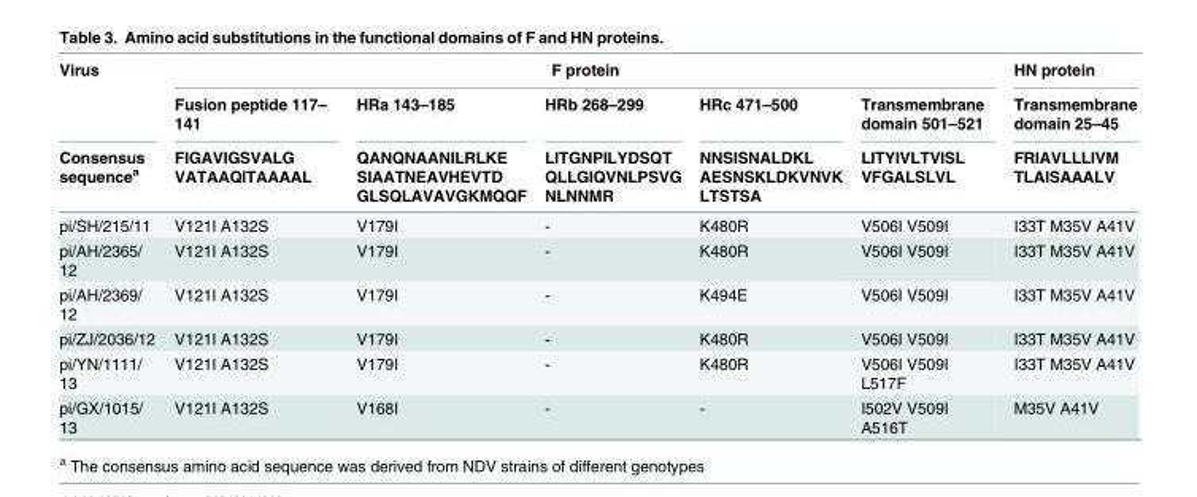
<table><thead><tr><td rowspan="3">Virus Consensus sequence<sup>a</sup></td><td colspan="5">F protein</td><td rowspan="3">HN protein Transmembrane domain 25–45 FRIAVLLLIVM TLAISAAALV</td></tr><tr><td rowspan="2">Fusion peptide 117– 141 FIGAVIGSVALG VATAAQITAAAAL</td><td rowspan="2">HRa 143–185 QANQNAANILRLKE SIAATNEAVHEVTD GLSQLAVAVGKMQQF</td><td rowspan="2">HRb 268–299 LITGNPILYDSQT QLLGIQVNLPSVG NLNNMR</td><td rowspan="2">HRc 471–500 NNSISNALDKL AESNSKLDKVNVK LTSTSA</td><td rowspan="2">Transmembrane domain 501–521 LITYIVLTVISL VFGALSLVL</td></tr><tr></tr></thead><tbody><tr><td>pi/SH/215/11</td><td>V121I A132S</td><td>V179I</td><td>-</td><td>K480R</td><td>V506I V509I</td><td>I33T M35V A41V</td></tr><tr><td>pi/AH/2365/ 12</td><td>V121I A132S</td><td>V179I</td><td>-</td><td>K480R</td><td>V506I V509I</td><td>I33T M35V A41V</td></tr><tr><td>pi/AH/2369/ 12</td><td>V121I A132S</td><td>V179I</td><td>-</td><td>K494E</td><td>V506I V509I</td><td>I33T M35V A41V</td></tr><tr><td>pi/ZJ/2036/12</td><td>V121I A132S</td><td>V179I</td><td>-</td><td>K480R</td><td>V506I V509I</td><td>I33T M35V A41V</td></tr><tr><td>pi/YN/1111/ 13</td><td>V121I A132S</td><td>V179I</td><td>-</td><td>K480R</td><td>V506I V509I L517F</td><td>I33T M35V A41V</td></tr><tr><td>pi/GX/1015/ 13</td><td>V121I A132S</td><td>V168I</td><td>-</td><td>-</td><td>I502V V509I A516T</td><td>M35V A41V</td></tr></tbody></table>